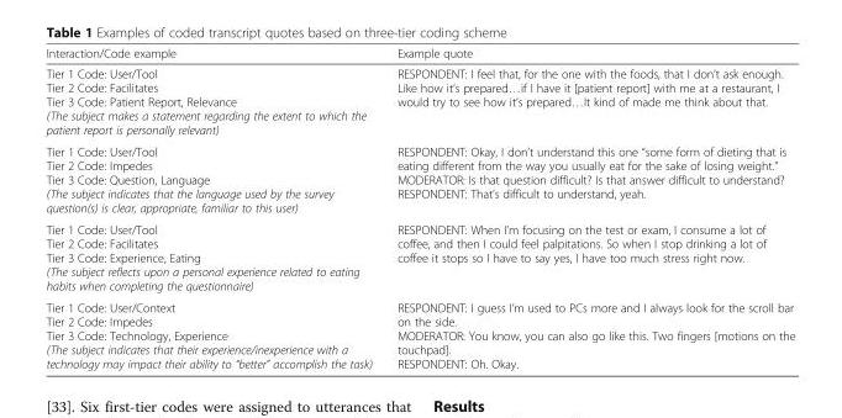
<table><thead><tr><td>Interaction/Code example</td><td>Example quote</td></tr></thead><tbody><tr><td>Tier 1 Code: User/Tool Tier 2 Code: Facilitates Tier 3 Code: Patient Report, Relevance (The subject makes a statement regarding the extent to which the patient report is personally relevant)</td><td>RESPONDENT: I feel that, for the one with the foods, that I don’t ask enough. Like how it’s prepared…if I have it [patient report] with me at a restaurant, I would try to see how it’s prepared…It kind of made me think about that.</td></tr><tr><td>Tier 1 Code: User/Tool Tier 2 Code: Impedes Tier 3 Code: Question, Language (The subject indicates that the language used by the survey question(s) is clear, appropriate, familiar to this user)</td><td>RESPONDENT: Okay, I don’t understand this one “some form of dieting that is eating different from the way you usually eat for the sake of losing weight.” MODERATOR: Is that question difficult? Is that answer difficult to understand? RESPONDENT: That’s difficult to understand, yeah.</td></tr><tr><td>Tier 1 Code: User/Tool Tier 2 Code: Facilitates Tier 3 Code: Experience, Eating (The subject reflects upon a personal experience related to eating habits when completing the questionnaire)</td><td>RESPONDENT: When I’m focusing on the test or exam, I consume a lot of coffee, and then I could feel palpitations. So when I stop drinking a lot of coffee it stops so I have to say yes, I have too much stress right now.</td></tr><tr><td>Tier 1 Code: User/Context Tier 2 Code: Impedes Tier 3 Code: Technology, Experience (The subject indicates that their experience/inexperience with a technology may impact their ability to “better” accomplish the task)</td><td>RESPONDENT: I guess I’m used to PCs more and I always look for the scroll bar on the side. MODERATOR: You know, you can also go like this. Two fingers [motions on the touchpad]. RESPONDENT: Oh. Okay.</td></tr></tbody></table>